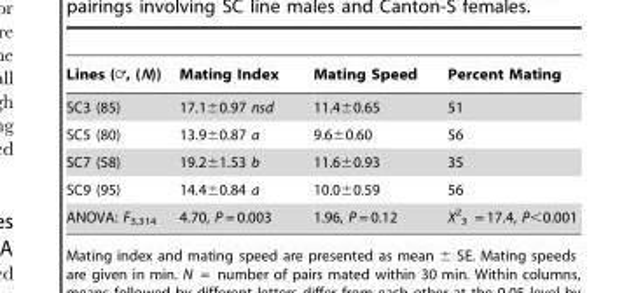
<table><thead><tr><td>Lines (=, (N))</td><td>Mating Index</td><td>Mating Speed</td><td>Percent Mating</td></tr></thead><tbody><tr><td>SC3 (85)</td><td>17.1±0.97 nsd</td><td>11.4±0.65</td><td>51</td></tr><tr><td>SC5 (80)</td><td>13.9±0.87 a</td><td>9.6±0.60</td><td>56</td></tr><tr><td>SC7 (58)</td><td>19.2±1.53 b</td><td>11.6±0.93</td><td>35</td></tr><tr><td>SC9 (95)</td><td>14.4±0.84 a</td><td>10.0±0.59</td><td>56</td></tr><tr><td>ANOVA: F<sub>3,314</sub></td><td>4.70, P = 0.003</td><td>1.96, P = 0.12</td><td>X<sup>2</sup> <sub>3</sub> = 17.4, P&lt;0.001</td></tr></tbody></table>